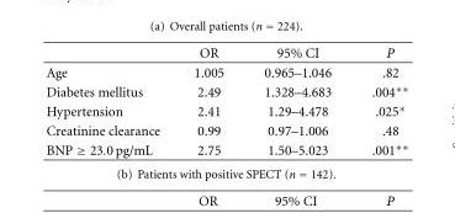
<table><thead><tr><td></td><td>OR</td><td>95% CI</td><td>P</td></tr></thead><tbody><tr><td>Age</td><td>1.005</td><td>0.965–1.046</td><td>.82</td></tr><tr><td>Diabetes mellitus</td><td>2.49</td><td>1.328–4.683</td><td>.004∗∗</td></tr><tr><td>Hypertension</td><td>2.41</td><td>1.29–4.478</td><td>.025∗</td></tr><tr><td>Creatinine clearance</td><td>0.99</td><td>0.97–1.006</td><td>.48</td></tr><tr><td>BNP ≥ 23.0 pg/mL</td><td>2.75</td><td>1.50–5.023</td><td>.001∗∗</td></tr></tbody></table>